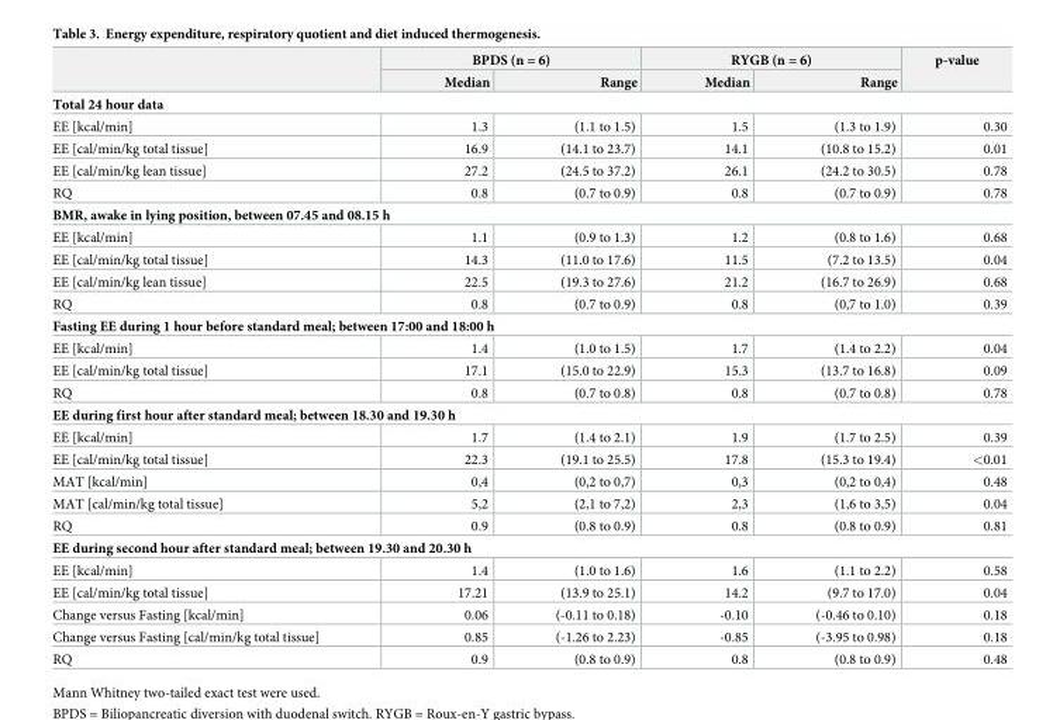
<table><thead><tr><td rowspan="2"></td><td colspan="2">BPDS (n = 6)</td><td colspan="2">RYGB (n = 6)</td><td rowspan="2">p-value</td></tr><tr><td>Median</td><td>Range</td><td>Median</td><td>Range</td></tr></thead><tbody><tr><td colspan="6">Total 24 hour data</td></tr><tr><td>EE [kcal/min]</td><td>1.3</td><td>(1.1 to 1.5)</td><td>1.5</td><td>(1.3 to 1.9)</td><td>0.30</td></tr><tr><td>EE [cal/min/kg total tissue]</td><td>16.9</td><td>(14.1 to 23.7)</td><td>14.1</td><td>(10.8 to 15.2)</td><td>0.01</td></tr><tr><td>EE [cal/min/kg lean tissue]</td><td>27.2</td><td>(24.5 to 37.2)</td><td>26.1</td><td>(24.2 to 30.5)</td><td>0.78</td></tr><tr><td>RQ</td><td>0.8</td><td>(0.7 to 0.9)</td><td>0.8</td><td>(0.7 to 0.9)</td><td>0.78</td></tr><tr><td colspan="6">BMR, awake in lying position, between 07.45 and 08.15 h</td></tr><tr><td>EE [kcal/min]</td><td>1.1</td><td>(0.9 to 1.3)</td><td>1.2</td><td>(0.8 to 1.6)</td><td>0.68</td></tr><tr><td>EE [cal/min/kg total tissue]</td><td>14.3</td><td>(11.0 to 17.6)</td><td>11.5</td><td>(7.2 to 13.5)</td><td>0.04</td></tr><tr><td>EE [cal/min/kg lean tissue]</td><td>22.5</td><td>(19.3 to 27.6)</td><td>21.2</td><td>(16.7 to 26.9)</td><td>0.68</td></tr><tr><td>RQ</td><td>0.8</td><td>(0.7 to 0.9)</td><td>0.8</td><td>(0,7 to 1.0)</td><td>0.39</td></tr><tr><td colspan="6">Fasting EE during 1 hour before standard meal; between 17:00 and 18:00 h</td></tr><tr><td>EE [kcal/min]</td><td>1.4</td><td>(1.0 to 1.5)</td><td>1.7</td><td>(1.4 to 2.2)</td><td>0.04</td></tr><tr><td>EE [cal/min/kg total tissue]</td><td>17.1</td><td>(15.0 to 22.9)</td><td>15.3</td><td>(13.7 to 16.8)</td><td>0.09</td></tr><tr><td>RQ</td><td>0.8</td><td>(0.7 to 0.8)</td><td>0.8</td><td>(0.7 to 0.8)</td><td>0.78</td></tr><tr><td colspan="6">EE during first hour after standard meal; between 18.30 and 19.30 h</td></tr><tr><td>EE [kcal/min]</td><td>1.7</td><td>(1.4 to 2.1)</td><td>1.9</td><td>(1.7 to 2.5)</td><td>0.39</td></tr><tr><td>EE [cal/min/kg total tissue]</td><td>22.3</td><td>(19.1 to 25.5)</td><td>17.8</td><td>(15.3 to 19.4)</td><td>&lt;0.01</td></tr><tr><td>MAT [kcal/min]</td><td>0,4</td><td>(0,2 to 0,7)</td><td>0,3</td><td>(0,2 to 0,4)</td><td>0.48</td></tr><tr><td>MAT [cal/min/kg total tissue]</td><td>5,2</td><td>(2,1 to 7,2)</td><td>2,3</td><td>(1,6 to 3,5)</td><td>0.04</td></tr><tr><td>RQ</td><td>0.9</td><td>(0.8 to 0.9)</td><td>0.8</td><td>(0.8 to 0.9)</td><td>0.81</td></tr><tr><td colspan="6">EE during second hour after standard meal; between 19.30 and 20.30 h</td></tr><tr><td>EE [kcal/min]</td><td>1.4</td><td>(1.0 to 1.6)</td><td>1.6</td><td>(1.1 to 2.2)</td><td>0.58</td></tr><tr><td>EE [cal/min/kg total tissue]</td><td>17.21</td><td>(13.9 to 25.1)</td><td>14.2</td><td>(9.7 to 17.0)</td><td>0.04</td></tr><tr><td>Change versus Fasting [kcal/min]</td><td>0.06</td><td>(-0.11 to 0.18)</td><td>-0.10</td><td>(-0.46 to 0.10)</td><td>0.18</td></tr><tr><td>Change versus Fasting [cal/min/kg total tissue]</td><td>0.85</td><td>(-1.26 to 2.23)</td><td>-0.85</td><td>(-3.95 to 0.98)</td><td>0.18</td></tr><tr><td>RQ</td><td>0.9</td><td>(0.8 to 0.9)</td><td>0.8</td><td>(0.8 to 0.9)</td><td>0.48</td></tr></tbody></table>